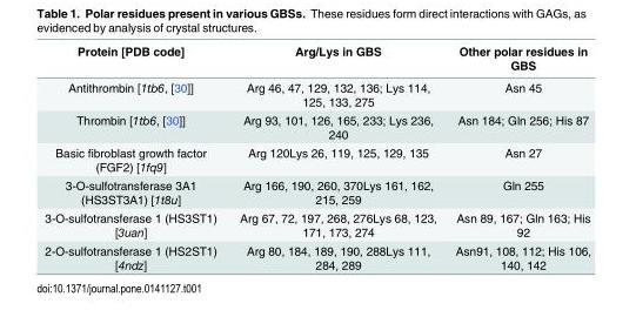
<table><thead><tr><td>Protein [PDB code]</td><td>Arg/Lys in GBS</td><td>Other polar residues in GBS</td></tr></thead><tbody><tr><td>Antithrombin [1tb6, [30]]</td><td>Arg 46, 47, 129, 132, 136; Lys 114, 125, 133, 275</td><td>Asn 45</td></tr><tr><td>Thrombin [1tb6, [30]]</td><td>Arg 93, 101, 126, 165, 233; Lys 236, 240</td><td>Asn 184; Gln 256; His 87</td></tr><tr><td>Basic fibroblast growth factor (FGF2) [1fq9]</td><td>Arg 120Lys 26, 119, 125, 129, 135</td><td>Asn 27</td></tr><tr><td>3-O-sulfotransferase 3A1 (HS3ST3A1) [1t8u]</td><td>Arg 166, 190, 260, 370Lys 161, 162, 215, 259</td><td>Gln 255</td></tr><tr><td>3-O-sulfotransferase 1 (HS3ST1) [3uan]</td><td>Arg 67, 72, 197, 268, 276Lys 68, 123, 171, 173, 274</td><td>Asn 89, 167; Gln 163; His 92</td></tr><tr><td>2-O-sulfotransferase 1 (HS2ST1) [4ndz]</td><td>Arg 80, 184, 189, 190, 288Lys 111, 284, 289</td><td>Asn91, 108, 112; His 106, 140, 142</td></tr></tbody></table>